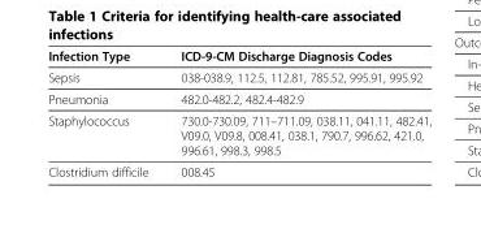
<table><thead><tr><td>Infection Type</td><td>ICD-9-CM Discharge Diagnosis Codes</td></tr></thead><tbody><tr><td>Sepsis</td><td>038-038.9, 112.5, 112.81, 785.52, 995.91, 995.92</td></tr><tr><td>Pneumonia</td><td>482.0-482.2, 482.4-482.9</td></tr><tr><td>Staphylococcus</td><td>730.0-730.09, 711–711.09, 038.11, 041.11, 482.41, V09.0, V09.8, 008.41, 038.1, 790.7, 996.62, 421.0, 996.61, 998.3, 998.5</td></tr><tr><td>Clostridium difficile</td><td>008.45</td></tr></tbody></table>